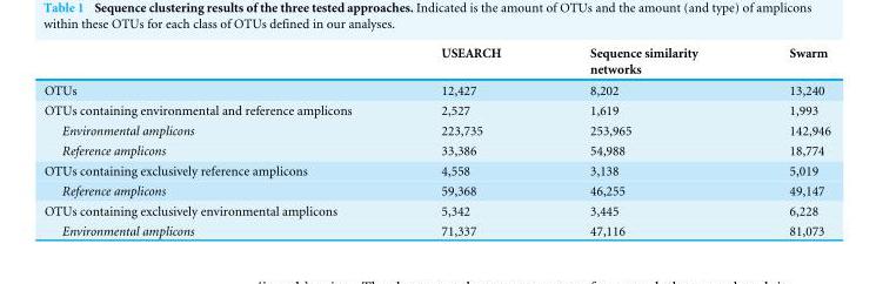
<table><thead><tr><td></td><td>USEARCH</td><td>Sequence similarity networks</td><td>Swarm</td></tr></thead><tbody><tr><td>OTUs</td><td>12,427</td><td>8,202</td><td>13,240</td></tr><tr><td>OTUs containing environmental and reference amplicons</td><td>2,527</td><td>1,619</td><td>1,993</td></tr><tr><td>Environmental amplicons</td><td>223,735</td><td>253,965</td><td>142,946</td></tr><tr><td>Reference amplicons</td><td>33,386</td><td>54,988</td><td>18,774</td></tr><tr><td>OTUs containing exclusively reference amplicons</td><td>4,558</td><td>3,138</td><td>5,019</td></tr><tr><td>Reference amplicons</td><td>59,368</td><td>46,255</td><td>49,147</td></tr><tr><td>OTUs containing exclusively environmental amplicons</td><td>5,342</td><td>3,445</td><td>6,228</td></tr><tr><td>Environmental amplicons</td><td>71,337</td><td>47,116</td><td>81,073</td></tr></tbody></table>